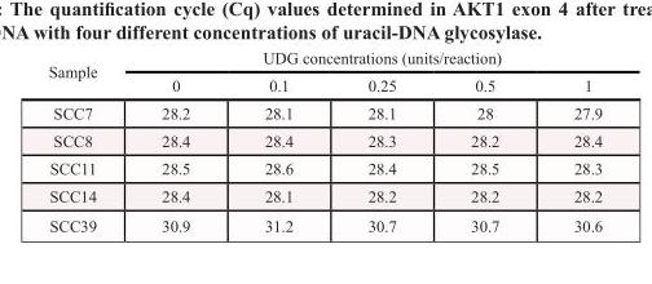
<table><thead><tr><td rowspan="2">Sample</td><td colspan="5">UDG concentrations (units/reaction)</td></tr><tr><td>0</td><td>0.1</td><td>0.25</td><td>0.5</td><td>1</td></tr></thead><tbody><tr><td>SCC7</td><td>28.2</td><td>28.1</td><td>28.1</td><td>28</td><td>27.9</td></tr><tr><td>SCC8</td><td>28.4</td><td>28.4</td><td>28.3</td><td>28.2</td><td>28.4</td></tr><tr><td>SCC11</td><td>28.5</td><td>28.6</td><td>28.4</td><td>28.5</td><td>28.3</td></tr><tr><td>SCC14</td><td>28.4</td><td>28.1</td><td>28.2</td><td>28.2</td><td>28.2</td></tr><tr><td>SCC39</td><td>30.9</td><td>31.2</td><td>30.7</td><td>30.7</td><td>30.6</td></tr></tbody></table>